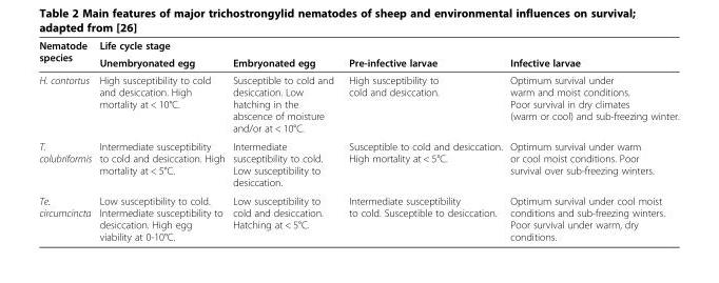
<table><thead><tr><td rowspan="2">Nematode species</td><td rowspan="2">Life cycle stage Unembryonated egg</td><td rowspan="2">Embryonated egg</td><td rowspan="2">Pre-infective larvae</td><td rowspan="2">Infective larvae</td></tr><tr></tr></thead><tbody><tr><td>H. contortus</td><td>High susceptibility to cold and desiccation. High mortality at &lt; 10°C.</td><td>Susceptible to cold and desiccation. Low hatching in the abscence of moisture and/or at &lt; 10°C.</td><td>High susceptibility to cold and desiccation.</td><td>Optimum survival under warm and moist conditions. Poor survival in dry climates (warm or cool) and sub-freezing winter.</td></tr><tr><td>T. colubriformis</td><td>Intermediate susceptibility to cold and desiccation. High mortality at &lt; 5°C.</td><td>Intermediate susceptibility to cold. Low susceptibility to desiccation.</td><td>Susceptible to cold and desiccation. High mortality at &lt; 5°C.</td><td>Optimum survival under warm or cool moist conditions. Poor survival over sub-freezing winters.</td></tr><tr><td>Te. circumcincta</td><td>Low susceptibility to cold. Intermediate susceptibility to desiccation. High egg viability at 0-10°C.</td><td>Low susceptibility to cold and desiccation. Hatching at &lt; 5°C.</td><td>Intermediate susceptibility to cold. Susceptible to desiccation.</td><td>Optimum survival under cool moist conditions and sub-freezing winters. Poor survival under warm, dry conditions.</td></tr></tbody></table>